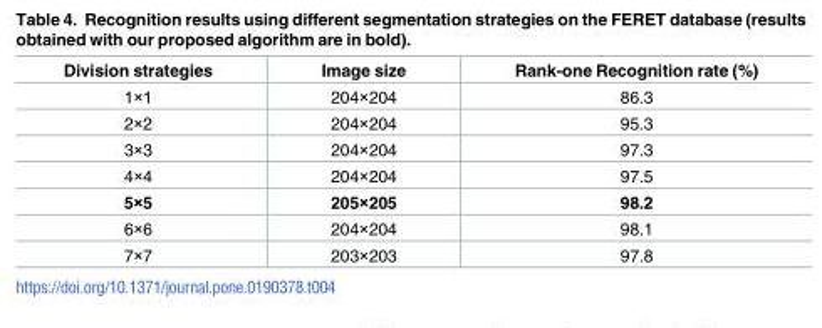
<table><thead><tr><td>Division strategies</td><td>Image size</td><td>Rank-one Recognition rate (%)</td></tr></thead><tbody><tr><td>1×1</td><td>204×204</td><td>86.3</td></tr><tr><td>2×2</td><td>204×204</td><td>95.3</td></tr><tr><td>3×3</td><td>204×204</td><td>97.3</td></tr><tr><td>4×4</td><td>204×204</td><td>97.5</td></tr><tr><td>5×5</td><td>205×205</td><td>98.2</td></tr><tr><td>6×6</td><td>204×204</td><td>98.1</td></tr><tr><td>7×7</td><td>203×203</td><td>97.8</td></tr></tbody></table>